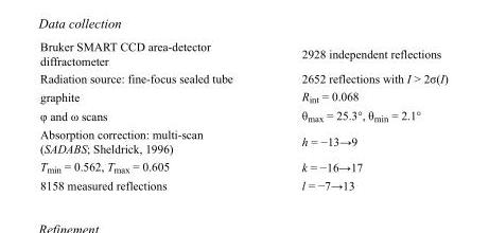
<table><tbody><tr><td>Bruker SMART CCD area-detector diffractometer</td><td>2928 independent reflections</td></tr><tr><td>Radiation source: fine-focus sealed tube</td><td>2652 reflections with I &gt; 2σ(I)</td></tr><tr><td>graphite</td><td>R<sub>int</sub> = 0.068</td></tr><tr><td>φ and ω scans</td><td>θ<sub>max</sub> = 25.3°, θ<sub>min</sub> = 2.1°</td></tr><tr><td>Absorption correction: multi-scan (SADABS; Sheldrick, 1996)</td><td>h = −13→9</td></tr><tr><td>T<sub>min</sub> = 0.562, T<sub>max</sub> = 0.605</td><td>k = −16→17</td></tr><tr><td>8158 measured reflections</td><td>l = −7→13</td></tr></tbody></table>